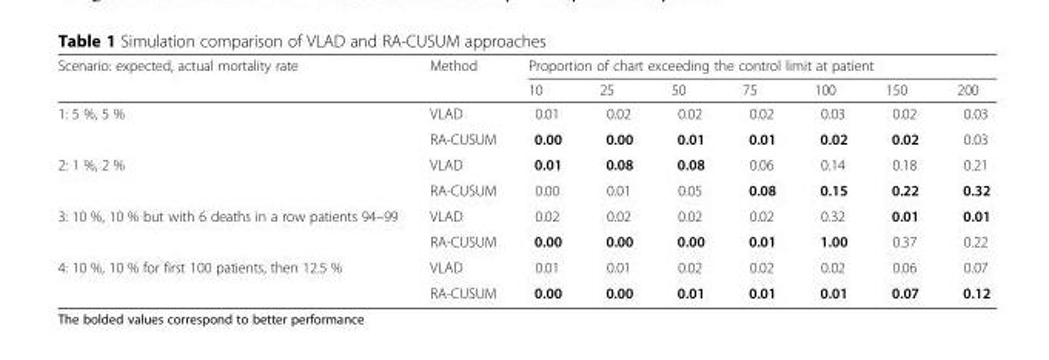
<table><thead><tr><td rowspan="2">Scenario: expected, actual mortality rate</td><td rowspan="2">Method</td><td colspan="7">Proportion of chart exceeding the control limit at patient</td></tr><tr><td>10</td><td>25</td><td>50</td><td>75</td><td>100</td><td>150</td><td>200</td></tr></thead><tbody><tr><td rowspan="2">1: 5 %, 5 %</td><td>VLAD</td><td>0.01</td><td>0.02</td><td>0.02</td><td>0.02</td><td>0.03</td><td>0.02</td><td>0.03</td></tr><tr><td>RA-CUSUM</td><td>0.00</td><td>0.00</td><td>0.01</td><td>0.01</td><td>0.02</td><td>0.02</td><td>0.03</td></tr><tr><td rowspan="2">2: 1 %, 2 %</td><td>VLAD</td><td>0.01</td><td>0.08</td><td>0.08</td><td>0.06</td><td>0.14</td><td>0.18</td><td>0.21</td></tr><tr><td>RA-CUSUM</td><td>0.00</td><td>0.01</td><td>0.05</td><td>0.08</td><td>0.15</td><td>0.22</td><td>0.32</td></tr><tr><td rowspan="2">3: 10 %, 10 % but with 6 deaths in a row patients 94–99</td><td>VLAD</td><td>0.02</td><td>0.02</td><td>0.02</td><td>0.02</td><td>0.32</td><td>0.01</td><td>0.01</td></tr><tr><td>RA-CUSUM</td><td>0.00</td><td>0.00</td><td>0.00</td><td>0.01</td><td>1.00</td><td>0.37</td><td>0.22</td></tr><tr><td rowspan="2">4: 10 %, 10 % for first 100 patients, then 12.5 %</td><td>VLAD</td><td>0.01</td><td>0.01</td><td>0.02</td><td>0.02</td><td>0.02</td><td>0.06</td><td>0.07</td></tr><tr><td>RA-CUSUM</td><td>0.00</td><td>0.00</td><td>0.01</td><td>0.01</td><td>0.01</td><td>0.07</td><td>0.12</td></tr></tbody></table>